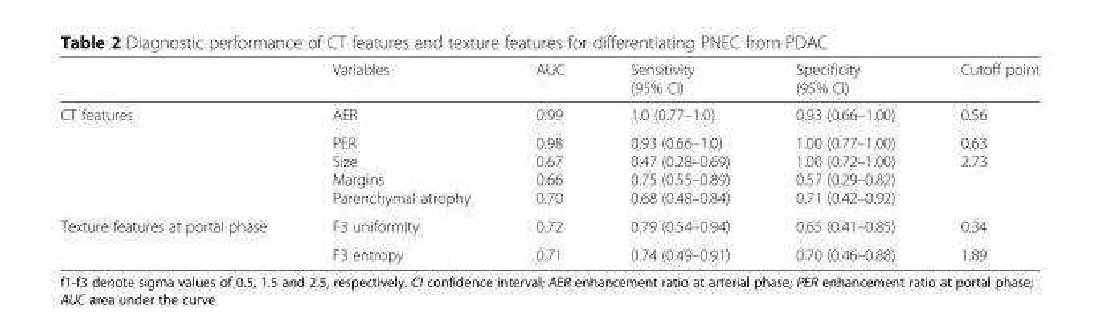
<table><thead><tr><td></td><td>Variables</td><td>AUC</td><td>Sensitivity (95% CI)</td><td>Specificity (95% CI)</td><td>Cutoff point</td></tr></thead><tbody><tr><td rowspan="2">CT features</td><td>AER</td><td>0.99</td><td>1.0 (0.77–1.0)</td><td>0.93 (0.66–1.00)</td><td>0.56</td></tr><tr><td>PER Size Margins Parenchymal atrophy</td><td>0.98 0.67 0.66 0.70</td><td>0.93 (0.66–1.0) 0.47 (0.28–0.69) 0.75 (0.55–0.89) 0.68 (0.48–0.84)</td><td>1.00 (0.77–1.00) 1.00 (0.72–1.00) 0.57 (0.29–0.82) 0.71 (0.42–0.92)</td><td>0.63 2.73</td></tr><tr><td rowspan="2">Texture features at portal phase</td><td>F3 uniformity</td><td>0.72</td><td>0.79 (0.54–0.94)</td><td>0.65 (0.41–0.85)</td><td>0.34</td></tr><tr><td>F3 entropy</td><td>0.71</td><td>0.74 (0.49–0.91)</td><td>0.70 (0.46–0.88)</td><td>1.89</td></tr></tbody></table>